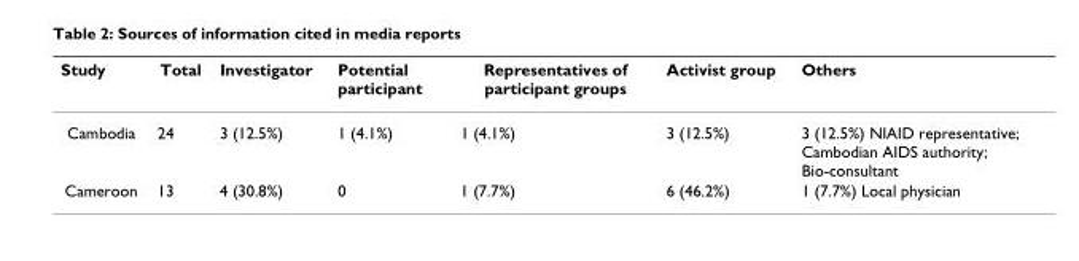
<table><thead><tr><td>Study</td><td>Total</td><td>Investigator</td><td>Potential participant</td><td>Representatives of participant groups</td><td>Activist group</td><td>Others</td></tr></thead><tbody><tr><td>Cambodia</td><td>24</td><td>3 (12.5%)</td><td>1 (4.1%)</td><td>1 (4.1%)</td><td>3 (12.5%)</td><td>3 (12.5%) NIAID representative; Cambodian AIDS authority; Bio-consultant</td></tr><tr><td>Cameroon</td><td>13</td><td>4 (30.8%)</td><td>0</td><td>1 (7.7%)</td><td>6 (46.2%)</td><td>1 (7.7%) Local physician</td></tr></tbody></table>